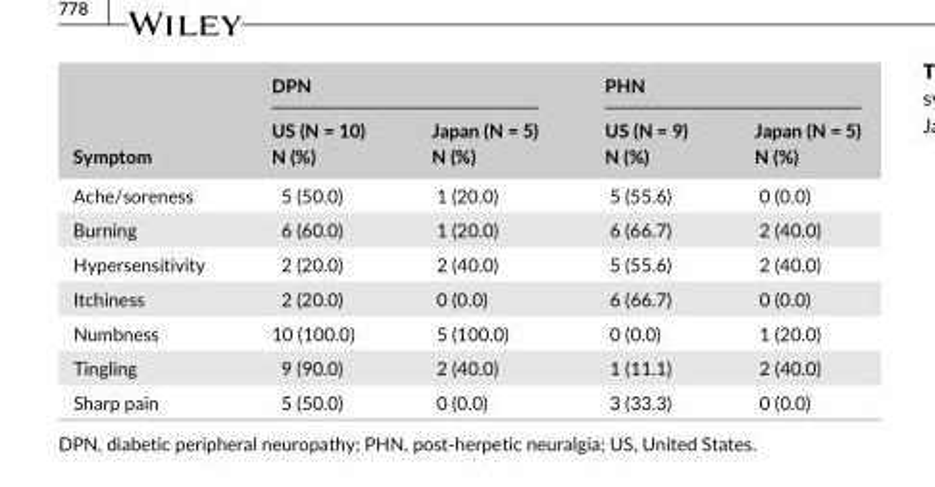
<table><thead><tr><td rowspan="2">Symptom</td><td colspan="2">DPN</td><td colspan="2">PHN</td></tr><tr><td>US (N = 10) N (%)</td><td>Japan (N = 5) N (%)</td><td>US (N = 9) N (%)</td><td>Japan (N = 5) N (%)</td></tr></thead><tbody><tr><td>Ache/soreness</td><td>5 (50.0)</td><td>1 (20.0)</td><td>5 (55.6)</td><td>0 (0.0)</td></tr><tr><td>Burning</td><td>6 (60.0)</td><td>1 (20.0)</td><td>6 (66.7)</td><td>2 (40.0)</td></tr><tr><td>Hypersensitivity</td><td>2 (20.0)</td><td>2 (40.0)</td><td>5 (55.6)</td><td>2 (40.0)</td></tr><tr><td>Itchiness</td><td>2 (20.0)</td><td>0 (0.0)</td><td>6 (66.7)</td><td>0 (0.0)</td></tr><tr><td>Numbness</td><td>10 (100.0)</td><td>5 (100.0)</td><td>0 (0.0)</td><td>1 (20.0)</td></tr><tr><td>Tingling</td><td>9 (90.0)</td><td>2 (40.0)</td><td>1 (11.1)</td><td>2 (40.0)</td></tr><tr><td>Sharp pain</td><td>5 (50.0)</td><td>0 (0.0)</td><td>3 (33.3)</td><td>0 (0.0)</td></tr></tbody></table>